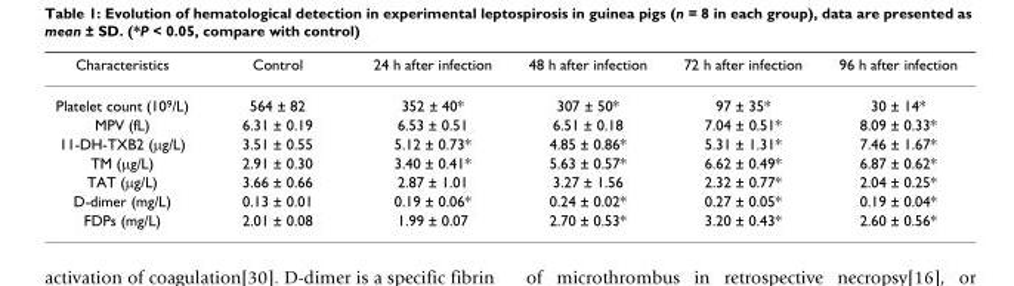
<table><thead><tr><td>Characteristics</td><td>Control</td><td>24 h after infection</td><td>48 h after infection</td><td>72 h after infection</td><td>96 h after infection</td></tr></thead><tbody><tr><td>Platelet count (10<sup>9</sup>/L)</td><td>564 ± 82</td><td>352 ± 40*</td><td>307 ± 50*</td><td>97 ± 35*</td><td>30 ± 14*</td></tr><tr><td>MPV (fL)</td><td>6.31 ± 0.19</td><td>6.53 ± 0.51</td><td>6.51 ± 0.18</td><td>7.04 ± 0.51*</td><td>8.09 ± 0.33*</td></tr><tr><td>11-DH-TXB2 (µg/L)</td><td>3.51 ± 0.55</td><td>5.12 ± 0.73*</td><td>4.85 ± 0.86*</td><td>5.31 ± 1.31*</td><td>7.46 ± 1.67*</td></tr><tr><td>TM (µg/L)</td><td>2.91 ± 0.30</td><td>3.40 ± 0.41*</td><td>5.63 ± 0.57*</td><td>6.62 ± 0.49*</td><td>6.87 ± 0.62*</td></tr><tr><td>TAT (µg/L)</td><td>3.66 ± 0.66</td><td>2.87 ± 1.01</td><td>3.27 ± 1.56</td><td>2.32 ± 0.77*</td><td>2.04 ± 0.25*</td></tr><tr><td>D-dimer (mg/L)</td><td>0.13 ± 0.01</td><td>0.19 ± 0.06*</td><td>0.24 ± 0.02*</td><td>0.27 ± 0.05*</td><td>0.19 ± 0.04*</td></tr><tr><td>FDPs (mg/L)</td><td>2.01 ± 0.08</td><td>1.99 ± 0.07</td><td>2.70 ± 0.53*</td><td>3.20 ± 0.43*</td><td>2.60 ± 0.56*</td></tr></tbody></table>